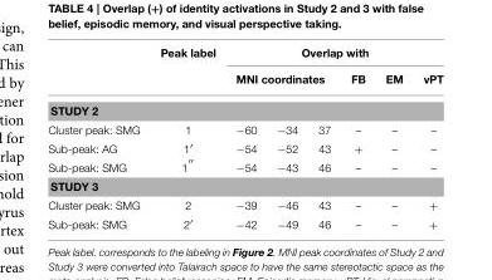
<table><thead><tr><td rowspan="2"></td><td rowspan="2">Peak label</td><td colspan="6">Overlap with</td></tr><tr><td colspan="3">MNI coordinates</td><td>FB</td><td>EM</td><td>vPT</td></tr><tr><td colspan="8">STUDY 2</td></tr><tr><td>Cluster peak: SMG</td><td>1</td><td>−60</td><td>−34</td><td>37</td><td>–</td><td>–</td><td>–</td></tr></thead><tbody><tr><td>Sub-peak: AG</td><td>1′</td><td>−54</td><td>−52</td><td>43</td><td>+</td><td>–</td><td>–</td></tr><tr><td>Sub-peak: SMG</td><td>1′′</td><td>−54</td><td>−43</td><td>46</td><td>–</td><td>–</td><td>–</td></tr><tr><td colspan="8">STUDY 3</td></tr><tr><td>Cluster peak: SMG</td><td>2</td><td>−39</td><td>−46</td><td>43</td><td>–</td><td>–</td><td>+</td></tr><tr><td>Sub-peak: SMG</td><td>2′</td><td>−42</td><td>−49</td><td>46</td><td>–</td><td>–</td><td>+</td></tr></tbody></table>